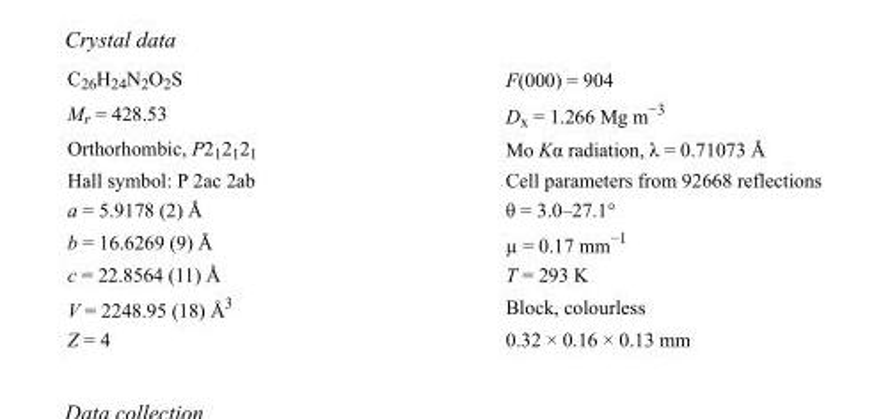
<table><tbody><tr><td>C<sub>26</sub>H<sub>24</sub>N<sub>2</sub>O<sub>2</sub>S</td><td>F(000) = 904</td></tr><tr><td>M<sub>r</sub> = 428.53</td><td>D<sub>x</sub> = 1.266 Mg m<sup>−3</sup></td></tr><tr><td>Orthorhombic, P2<sub>1</sub>2<sub>1</sub>2<sub>1</sub></td><td>Mo Kα radiation, λ = 0.71073 Å</td></tr><tr><td>Hall symbol: P 2ac 2ab</td><td>Cell parameters from 92668 reflections</td></tr><tr><td>a = 5.9178 (2) Å</td><td>θ = 3.0–27.1°</td></tr><tr><td>b = 16.6269 (9) Å</td><td>µ = 0.17 mm<sup>−1</sup></td></tr><tr><td>c = 22.8564 (11) Å</td><td>T = 293 K</td></tr><tr><td>V = 2248.95 (18) Å<sup>3</sup></td><td>Block, colourless</td></tr><tr><td>Z = 4</td><td>0.32 × 0.16 × 0.13 mm</td></tr></tbody></table>